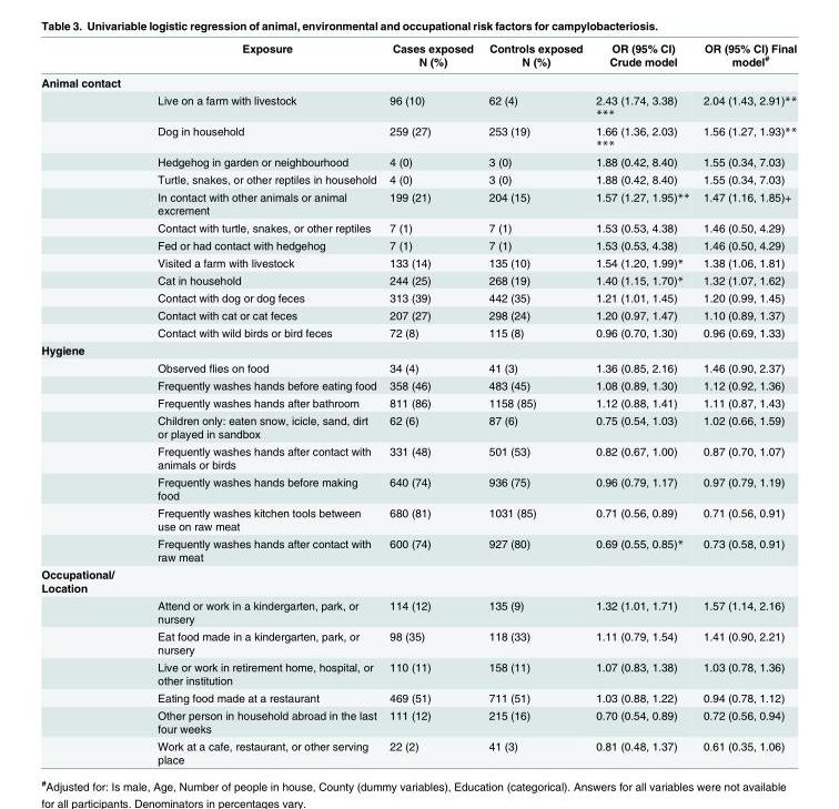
<table><thead><tr><td></td><td>Exposure</td><td>Cases exposed N (%)</td><td>Controls exposed N (%)</td><td>OR (95% CI) Crude model</td><td>OR (95% CI) Final model<sup>#</sup></td></tr></thead><tbody><tr><td colspan="6">Animal contact</td></tr><tr><td></td><td>Live on a farm with livestock</td><td>96 (10)</td><td>62 (4)</td><td>2.43 (1.74, 3.38) ***</td><td>2.04 (1.43, 2.91)**</td></tr><tr><td></td><td>Dog in household</td><td>259 (27)</td><td>253 (19)</td><td>1.66 (1.36, 2.03) ***</td><td>1.56 (1.27, 1.93)**</td></tr><tr><td></td><td>Hedgehog in garden or neighbourhood</td><td>4 (0)</td><td>3 (0)</td><td>1.88 (0.42, 8.40)</td><td>1.55 (0.34, 7.03)</td></tr><tr><td></td><td>Turtle, snakes, or other reptiles in household</td><td>4 (0)</td><td>3 (0)</td><td>1.88 (0.42, 8.40)</td><td>1.55 (0.34, 7.03)</td></tr><tr><td></td><td>In contact with other animals or animal excrement</td><td>199 (21)</td><td>204 (15)</td><td>1.57 (1.27, 1.95)**</td><td>1.47 (1.16, 1.85)+</td></tr><tr><td></td><td>Contact with turtle, snakes, or other reptiles</td><td>7 (1)</td><td>7 (1)</td><td>1.53 (0.53, 4.38)</td><td>1.46 (0.50, 4.29)</td></tr><tr><td></td><td>Fed or had contact with hedgehog</td><td>7 (1)</td><td>7 (1)</td><td>1.53 (0.53, 4.38)</td><td>1.46 (0.50, 4.29)</td></tr><tr><td></td><td>Visited a farm with livestock</td><td>133 (14)</td><td>135 (10)</td><td>1.54 (1.20, 1.99)*</td><td>1.38 (1.06, 1.81)</td></tr><tr><td></td><td>Cat in household</td><td>244 (25)</td><td>268 (19)</td><td>1.40 (1.15, 1.70)*</td><td>1.32 (1.07, 1.62)</td></tr><tr><td></td><td>Contact with dog or dog feces</td><td>313 (39)</td><td>442 (35)</td><td>1.21 (1.01, 1.45)</td><td>1.20 (0.99, 1.45)</td></tr><tr><td></td><td>Contact with cat or cat feces</td><td>207 (27)</td><td>298 (24)</td><td>1.20 (0.97, 1.47)</td><td>1.10 (0.89, 1.37)</td></tr><tr><td></td><td>Contact with wild birds or bird feces</td><td>72 (8)</td><td>115 (8)</td><td>0.96 (0.70, 1.30)</td><td>0.96 (0.69, 1.33)</td></tr><tr><td colspan="6">Hygiene</td></tr><tr><td></td><td>Observed flies on food</td><td>34 (4)</td><td>41 (3)</td><td>1.36 (0.85, 2.16)</td><td>1.46 (0.90, 2.37)</td></tr><tr><td></td><td>Frequently washes hands before eating food</td><td>358 (46)</td><td>483 (45)</td><td>1.08 (0.89, 1.30)</td><td>1.12 (0.92, 1.36)</td></tr><tr><td></td><td>Frequently washes hands after bathroom</td><td>811 (86)</td><td>1158 (85)</td><td>1.12 (0.88, 1.41)</td><td>1.11 (0.87, 1.43)</td></tr><tr><td></td><td>Children only: eaten snow, icicle, sand, dirt or played in sandbox</td><td>62 (6)</td><td>87 (6)</td><td>0.75 (0.54, 1.03)</td><td>1.02 (0.66, 1.59)</td></tr><tr><td></td><td>Frequently washes hands after contact with animals or birds</td><td>331 (48)</td><td>501 (53)</td><td>0.82 (0.67, 1.00)</td><td>0.87 (0.70, 1.07)</td></tr><tr><td></td><td>Frequently washes hands before making food</td><td>640 (74)</td><td>936 (75)</td><td>0.96 (0.79, 1.17)</td><td>0.97 (0.79, 1.19)</td></tr><tr><td></td><td>Frequently washes kitchen tools between use on raw meat</td><td>680 (81)</td><td>1031 (85)</td><td>0.71 (0.56, 0.89)</td><td>0.71 (0.56, 0.91)</td></tr><tr><td></td><td>Frequently washes hands after contact with raw meat</td><td>600 (74)</td><td>927 (80)</td><td>0.69 (0.55, 0.85)*</td><td>0.73 (0.58, 0.91)</td></tr><tr><td colspan="6">Occupational/ Location</td></tr><tr><td></td><td>Attend or work in a kindergarten, park, or nursery</td><td>114 (12)</td><td>135 (9)</td><td>1.32 (1.01, 1.71)</td><td>1.57 (1.14, 2.16)</td></tr><tr><td></td><td>Eat food made in a kindergarten, park, or nursery</td><td>98 (35)</td><td>118 (33)</td><td>1.11 (0.79, 1.54)</td><td>1.41 (0.90, 2.21)</td></tr><tr><td></td><td>Live or work in retirement home, hospital, or other institution</td><td>110 (11)</td><td>158 (11)</td><td>1.07 (0.83, 1.38)</td><td>1.03 (0.78, 1.36)</td></tr><tr><td></td><td>Eating food made at a restaurant</td><td>469 (51)</td><td>711 (51)</td><td>1.03 (0.88, 1.22)</td><td>0.94 (0.78, 1.12)</td></tr><tr><td></td><td>Other person in household abroad in the last four weeks</td><td>111 (12)</td><td>215 (16)</td><td>0.70 (0.54, 0.89)</td><td>0.72 (0.56, 0.94)</td></tr><tr><td></td><td>Work at a cafe, restaurant, or other serving place</td><td>22 (2)</td><td>41 (3)</td><td>0.81 (0.48, 1.37)</td><td>0.61 (0.35, 1.06)</td></tr></tbody></table>